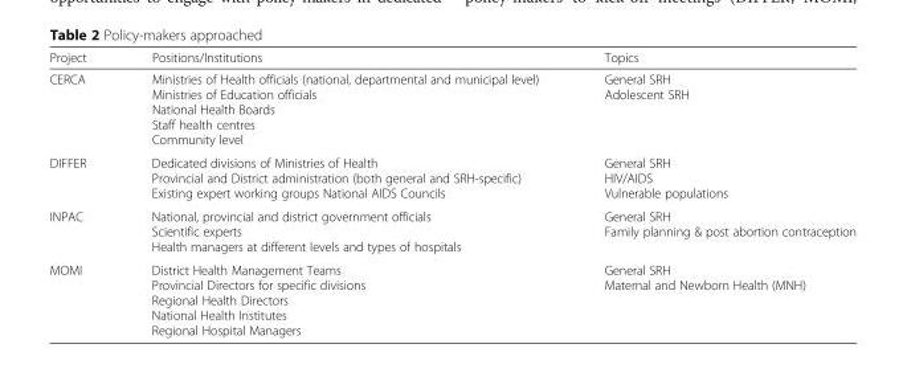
<table><thead><tr><td>Project</td><td>Positions/Institutions</td><td>Topics</td></tr></thead><tbody><tr><td>CERCA</td><td>Ministries of Health officials (national, departmental and municipal level) Ministries of Education officials National Health Boards Staff health centres Community level</td><td>General SRH Adolescent SRH</td></tr><tr><td>DIFFER</td><td>Dedicated divisions of Ministries of Health Provincial and District administration (both general and SRH-specific) Existing expert working groups National AIDS Councils</td><td>General SRH HIV/AIDS Vulnerable populations</td></tr><tr><td>INPAC</td><td>National, provincial and district government officials Scientific experts Health managers at different levels and types of hospitals</td><td>General SRH Family planning &amp; post abortion contraception</td></tr><tr><td>MOMI</td><td>District Health Management Teams Provincial Directors for specific divisions Regional Health Directors National Health Institutes Regional Hospital Managers</td><td>General SRH Maternal and Newborn Health (MNH)</td></tr></tbody></table>